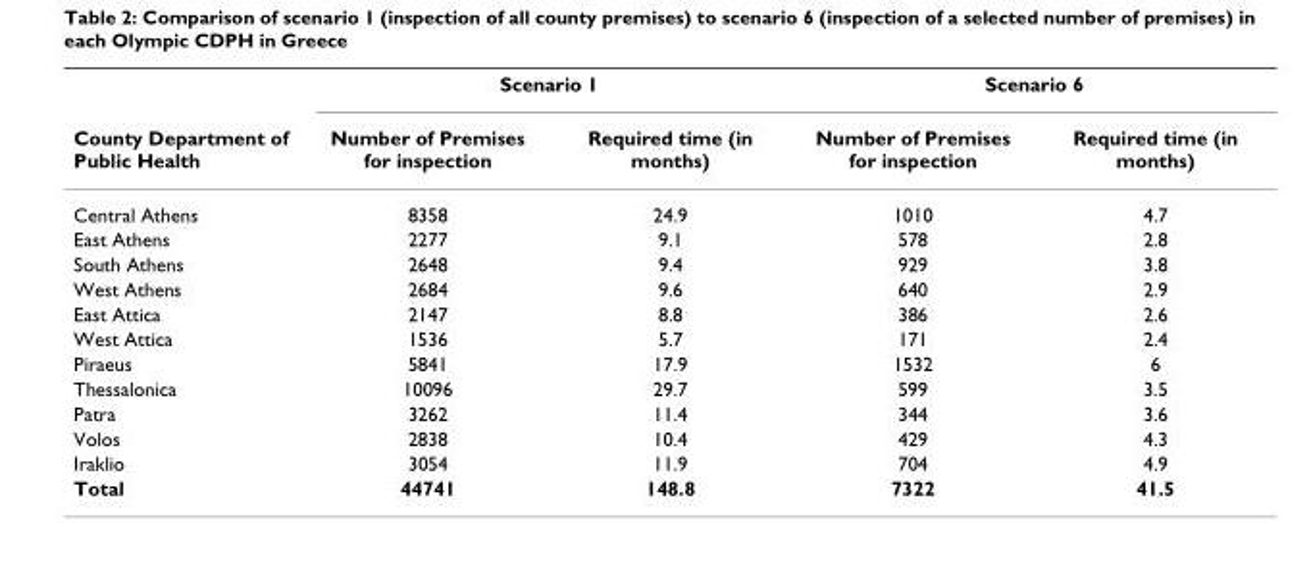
<table><thead><tr><td rowspan="2">County Department of Public Health</td><td colspan="2">Scenario 1</td><td colspan="2">Scenario 6</td></tr><tr><td>Number of Premises for inspection</td><td>Required time (in months)</td><td>Number of Premises for inspection</td><td>Required time (in months)</td></tr></thead><tbody><tr><td>Central Athens</td><td>8358</td><td>24.9</td><td>1010</td><td>4.7</td></tr><tr><td>East Athens</td><td>2277</td><td>9.1</td><td>578</td><td>2.8</td></tr><tr><td>South Athens</td><td>2648</td><td>9.4</td><td>929</td><td>3.8</td></tr><tr><td>West Athens</td><td>2684</td><td>9.6</td><td>640</td><td>2.9</td></tr><tr><td>East Attica</td><td>2147</td><td>8.8</td><td>386</td><td>2.6</td></tr><tr><td>West Attica</td><td>1536</td><td>5.7</td><td>171</td><td>2.4</td></tr><tr><td>Piraeus</td><td>5841</td><td>17.9</td><td>1532</td><td>6</td></tr><tr><td>Thessalonica</td><td>10096</td><td>29.7</td><td>599</td><td>3.5</td></tr><tr><td>Patra</td><td>3262</td><td>11.4</td><td>344</td><td>3.6</td></tr><tr><td>Volos</td><td>2838</td><td>10.4</td><td>429</td><td>4.3</td></tr><tr><td>Iraklio</td><td>3054</td><td>11.9</td><td>704</td><td>4.9</td></tr><tr><td>Total</td><td>44741</td><td>148.8</td><td>7322</td><td>41.5</td></tr></tbody></table>